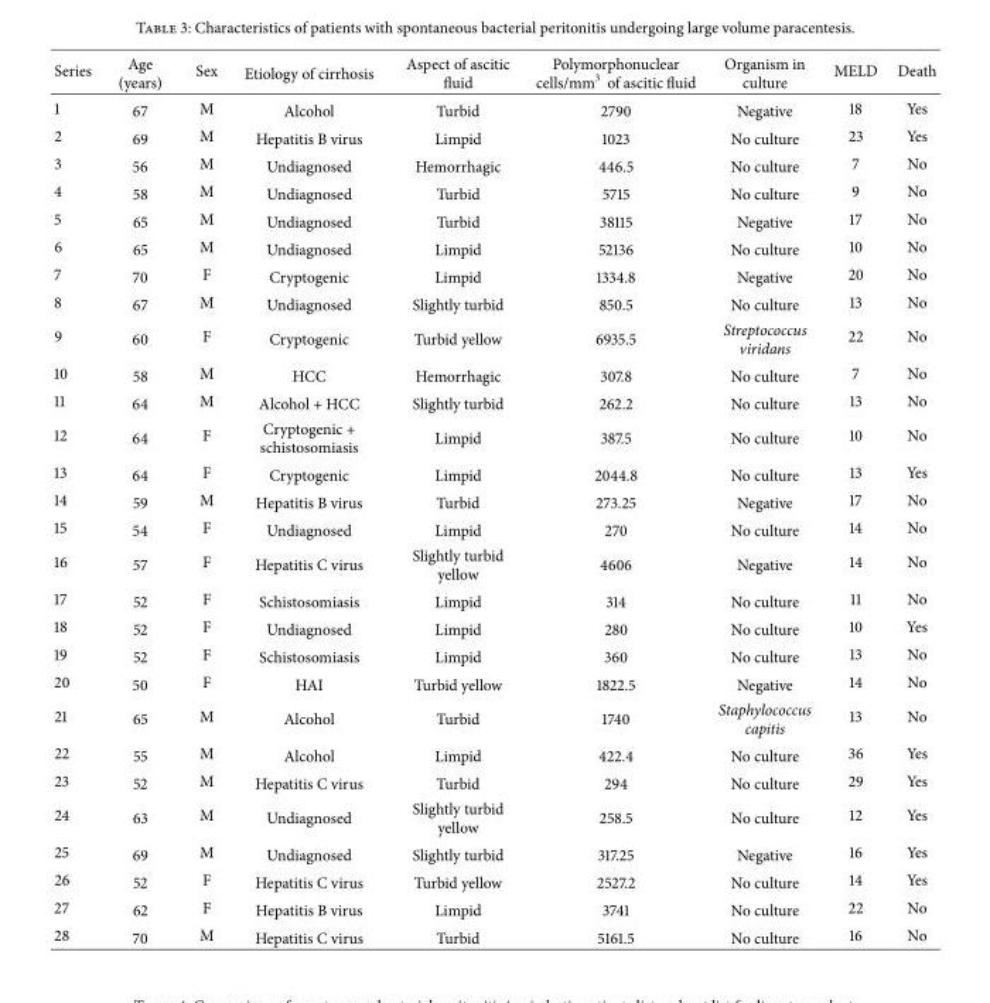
<table><thead><tr><td>Series</td><td>Age (years)</td><td>Sex</td><td>Etiology of cirrhosis</td><td>Aspect of ascitic fluid</td><td>Polymorphonuclear cells/mm<sup>3</sup> of ascitic fluid</td><td>Organism in culture</td><td>MELD</td><td>Death</td></tr></thead><tbody><tr><td>1</td><td>67</td><td>M</td><td>Alcohol</td><td>Turbid</td><td>2790</td><td>Negative</td><td>18</td><td>Yes</td></tr><tr><td>2</td><td>69</td><td>M</td><td>Hepatitis B virus</td><td>Limpid</td><td>1023</td><td>No culture</td><td>23</td><td>Yes</td></tr><tr><td>3</td><td>56</td><td>M</td><td>Undiagnosed</td><td>Hemorrhagic</td><td>446.5</td><td>No culture</td><td>7</td><td>No</td></tr><tr><td>4</td><td>58</td><td>M</td><td>Undiagnosed</td><td>Turbid</td><td>5715</td><td>No culture</td><td>9</td><td>No</td></tr><tr><td>5</td><td>65</td><td>M</td><td>Undiagnosed</td><td>Turbid</td><td>38115</td><td>Negative</td><td>17</td><td>No</td></tr><tr><td>6</td><td>65</td><td>M</td><td>Undiagnosed</td><td>Limpid</td><td>52136</td><td>No culture</td><td>10</td><td>No</td></tr><tr><td>7</td><td>70</td><td>F</td><td>Cryptogenic</td><td>Limpid</td><td>1334.8</td><td>Negative</td><td>20</td><td>No</td></tr><tr><td>8</td><td>67</td><td>M</td><td>Undiagnosed</td><td>Slightly turbid</td><td>850.5</td><td>No culture</td><td>13</td><td>No</td></tr><tr><td>9</td><td>60</td><td>F</td><td>Cryptogenic</td><td>Turbid yellow</td><td>6935.5</td><td>Streptococcus viridans</td><td>22</td><td>No</td></tr><tr><td>10</td><td>58</td><td>M</td><td>HCC</td><td>Hemorrhagic</td><td>307.8</td><td>No culture</td><td>7</td><td>No</td></tr><tr><td>11</td><td>64</td><td>M</td><td>Alcohol + HCC</td><td>Slightly turbid</td><td>262.2</td><td>No culture</td><td>13</td><td>No</td></tr><tr><td>12</td><td>64</td><td>F</td><td>Cryptogenic + schistosomiasis</td><td>Limpid</td><td>387.5</td><td>No culture</td><td>10</td><td>No</td></tr><tr><td>13</td><td>64</td><td>F</td><td>Cryptogenic</td><td>Limpid</td><td>2044.8</td><td>No culture</td><td>13</td><td>Yes</td></tr><tr><td>14</td><td>59</td><td>M</td><td>Hepatitis B virus</td><td>Turbid</td><td>273.25</td><td>Negative</td><td>17</td><td>No</td></tr><tr><td>15</td><td>54</td><td>F</td><td>Undiagnosed</td><td>Limpid</td><td>270</td><td>No culture</td><td>14</td><td>No</td></tr><tr><td>16</td><td>57</td><td>F</td><td>Hepatitis C virus</td><td>Slightly turbid yellow</td><td>4606</td><td>Negative</td><td>14</td><td>No</td></tr><tr><td>17</td><td>52</td><td>F</td><td>Schistosomiasis</td><td>Limpid</td><td>314</td><td>No culture</td><td>11</td><td>No</td></tr><tr><td>18</td><td>52</td><td>F</td><td>Undiagnosed</td><td>Limpid</td><td>280</td><td>No culture</td><td>10</td><td>Yes</td></tr><tr><td>19</td><td>52</td><td>F</td><td>Schistosomiasis</td><td>Limpid</td><td>360</td><td>No culture</td><td>13</td><td>No</td></tr><tr><td>20</td><td>50</td><td>F</td><td>HAI</td><td>Turbid yellow</td><td>1822.5</td><td>Negative</td><td>14</td><td>No</td></tr><tr><td>21</td><td>65</td><td>M</td><td>Alcohol</td><td>Turbid</td><td>1740</td><td>Staphylococcus capitis</td><td>13</td><td>No</td></tr><tr><td>22</td><td>55</td><td>M</td><td>Alcohol</td><td>Limpid</td><td>422.4</td><td>No culture</td><td>36</td><td>Yes</td></tr><tr><td>23</td><td>52</td><td>M</td><td>Hepatitis C virus</td><td>Turbid</td><td>294</td><td>No culture</td><td>29</td><td>Yes</td></tr><tr><td>24</td><td>63</td><td>M</td><td>Undiagnosed</td><td>Slightly turbid yellow</td><td>258.5</td><td>No culture</td><td>12</td><td>Yes</td></tr><tr><td>25</td><td>69</td><td>M</td><td>Undiagnosed</td><td>Slightly turbid</td><td>317.25</td><td>Negative</td><td>16</td><td>Yes</td></tr><tr><td>26</td><td>52</td><td>F</td><td>Hepatitis C virus</td><td>Turbid yellow</td><td>2527.2</td><td>No culture</td><td>14</td><td>Yes</td></tr><tr><td>27</td><td>62</td><td>F</td><td>Hepatitis B virus</td><td>Limpid</td><td>3741</td><td>No culture</td><td>22</td><td>No</td></tr><tr><td>28</td><td>70</td><td>M</td><td>Hepatitis C virus</td><td>Turbid</td><td>5161.5</td><td>No culture</td><td>16</td><td>No</td></tr></tbody></table>